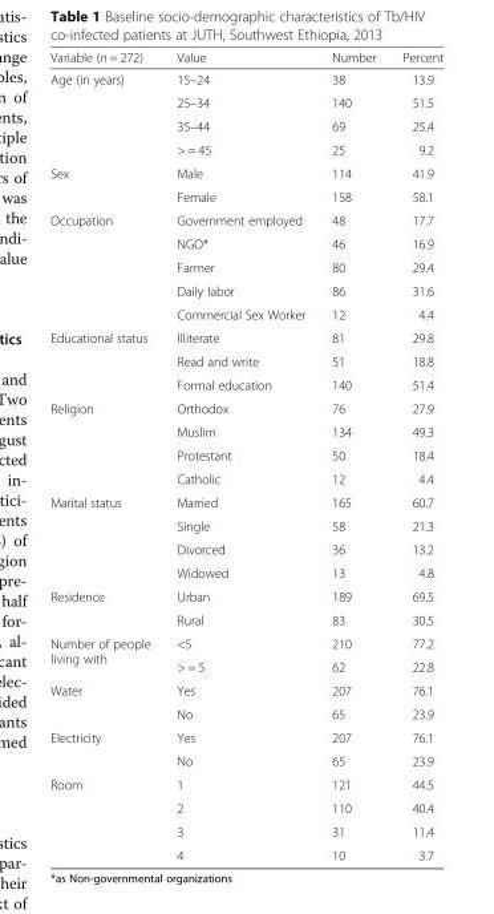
<table><thead><tr><td>Variable (n = 272)</td><td>Value</td><td>Number</td><td>Percent</td></tr></thead><tbody><tr><td rowspan="4">Age (in years)</td><td>15–24</td><td>38</td><td>13.9</td></tr><tr><td>25–34</td><td>140</td><td>51.5</td></tr><tr><td>35–44</td><td>69</td><td>25.4</td></tr><tr><td>&gt; = 45</td><td>25</td><td>9.2</td></tr><tr><td rowspan="2">Sex</td><td>Male</td><td>114</td><td>41.9</td></tr><tr><td>Female</td><td>158</td><td>58.1</td></tr><tr><td rowspan="5">Occupation</td><td>Government employed</td><td>48</td><td>17.7</td></tr><tr><td>NGO*</td><td>46</td><td>16.9</td></tr><tr><td>Farmer</td><td>80</td><td>29.4</td></tr><tr><td>Daily labor</td><td>86</td><td>31.6</td></tr><tr><td>Commercial Sex Worker</td><td>12</td><td>4.4</td></tr><tr><td rowspan="3">Educational status</td><td>Illiterate</td><td>81</td><td>29.8</td></tr><tr><td>Read and write</td><td>51</td><td>18.8</td></tr><tr><td>Formal education</td><td>140</td><td>51.4</td></tr><tr><td rowspan="4">Religion</td><td>Orthodox</td><td>76</td><td>27.9</td></tr><tr><td>Muslim</td><td>134</td><td>49.3</td></tr><tr><td>Protestant</td><td>50</td><td>18.4</td></tr><tr><td>Catholic</td><td>12</td><td>4.4</td></tr><tr><td rowspan="4">Marital status</td><td>Married</td><td>165</td><td>60.7</td></tr><tr><td>Single</td><td>58</td><td>21.3</td></tr><tr><td>Divorced</td><td>36</td><td>13.2</td></tr><tr><td>Widowed</td><td>13</td><td>4.8</td></tr><tr><td rowspan="2">Residence</td><td>Urban</td><td>189</td><td>69.5</td></tr><tr><td>Rural</td><td>83</td><td>30.5</td></tr><tr><td rowspan="2">Number of people living with</td><td>&lt;5</td><td>210</td><td>77.2</td></tr><tr><td>&gt; = 5</td><td>62</td><td>22.8</td></tr><tr><td rowspan="2">Water</td><td>Yes</td><td>207</td><td>76.1</td></tr><tr><td>No</td><td>65</td><td>23.9</td></tr><tr><td rowspan="2">Electricity</td><td>Yes</td><td>207</td><td>76.1</td></tr><tr><td>No</td><td>65</td><td>23.9</td></tr><tr><td rowspan="4">Room</td><td>1</td><td>121</td><td>44.5</td></tr><tr><td>2</td><td>110</td><td>40.4</td></tr><tr><td>3</td><td>31</td><td>11.4</td></tr><tr><td>4</td><td>10</td><td>3.7</td></tr></tbody></table>